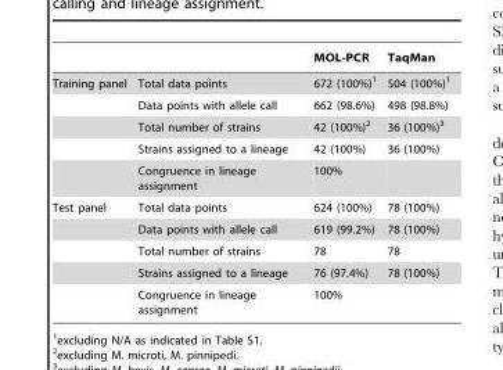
<table><thead><tr><td></td><td></td><td>MOL-PCR</td><td>TaqMan</td></tr></thead><tbody><tr><td rowspan="5">Training panel</td><td>Total data points</td><td>672 (100%)<sup>1</sup></td><td>504 (100%)<sup>1</sup></td></tr><tr><td>Data points with allele call</td><td>662 (98.6%)</td><td>498 (98.8%)</td></tr><tr><td>Total number of strains</td><td>42 (100%)<sup>2</sup></td><td>36 (100%)<sup>3</sup></td></tr><tr><td>Strains assigned to a lineage</td><td>42 (100%)</td><td>36 (100%)</td></tr><tr><td>Congruence in lineage assignment</td><td>100%</td><td></td></tr><tr><td rowspan="5">Test panel</td><td>Total data points</td><td>624 (100%)</td><td>78 (100%)</td></tr><tr><td>Data points with allele call</td><td>619 (99.2%)</td><td>78 (100%)</td></tr><tr><td>Total number of strains</td><td>78</td><td>78</td></tr><tr><td>Strains assigned to a lineage</td><td>76 (97.4%)</td><td>78 (100%)</td></tr><tr><td>Congruence in lineage assignment</td><td>100%</td><td></td></tr></tbody></table>